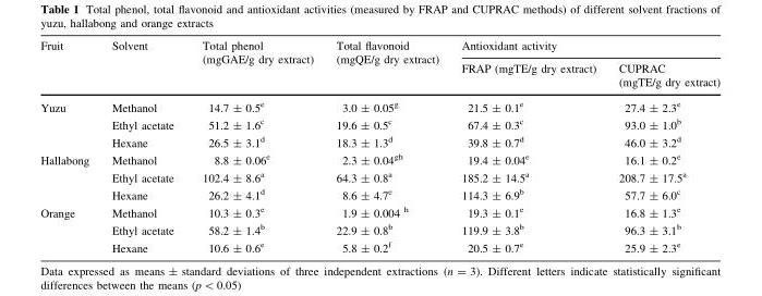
<table><thead><tr><td rowspan="2">Fruit</td><td rowspan="2">Solvent</td><td rowspan="2">Total phenol (mgGAE/g dry extract)</td><td rowspan="2">Total flavonoid (mgQE/g dry extract)</td><td colspan="2">Antioxidant activity</td></tr><tr><td>FRAP (mgTE/g dry extract)</td><td>CUPRAC (mgTE/g dry extract)</td></tr></thead><tbody><tr><td rowspan="3">Yuzu</td><td>Methanol</td><td>14.7 ± 0.5<sup>e</sup></td><td>3.0 ± 0.05<sup>g</sup></td><td>21.5 ± 0.1<sup>e</sup></td><td>27.4 ± 2.3<sup>e</sup></td></tr><tr><td>Ethyl acetate</td><td>51.2 ± 1.6<sup>c</sup></td><td>19.6 ± 0.5<sup>c</sup></td><td>67.4 ± 0.3<sup>c</sup></td><td>93.0 ± 1.0<sup>b</sup></td></tr><tr><td>Hexane</td><td>26.5 ± 3.1<sup>d</sup></td><td>18.3 ± 1.3<sup>d</sup></td><td>39.8 ± 0.7<sup>d</sup></td><td>46.0 ± 3.2<sup>d</sup></td></tr><tr><td rowspan="3">Hallabong</td><td>Methanol</td><td>8.8 ± 0.06<sup>e</sup></td><td>2.3 ± 0.04<sup>gh</sup></td><td>19.4 ± 0.04<sup>e</sup></td><td>16.1 ± 0.2<sup>e</sup></td></tr><tr><td>Ethyl acetate</td><td>102.4 ± 8.6<sup>a</sup></td><td>64.3 ± 0.8<sup>a</sup></td><td>185.2 ± 14.5<sup>a</sup></td><td>208.7 ± 17.5<sup>a</sup></td></tr><tr><td>Hexane</td><td>26.2 ± 4.1<sup>d</sup></td><td>8.6 ± 4.7<sup>e</sup></td><td>114.3 ± 6.9<sup>b</sup></td><td>57.7 ± 6.0<sup>c</sup></td></tr><tr><td rowspan="3">Orange</td><td>Methanol</td><td>10.3 ± 0.3<sup>e</sup></td><td>1.9 ± 0.004 <sup>h</sup></td><td>19.3 ± 0.1<sup>e</sup></td><td>16.8 ± 1.3<sup>e</sup></td></tr><tr><td>Ethyl acetate</td><td>58.2 ± 1.4<sup>b</sup></td><td>22.9 ± 0.8<sup>b</sup></td><td>119.9 ± 3.8<sup>b</sup></td><td>96.3 ± 3.1<sup>b</sup></td></tr><tr><td>Hexane</td><td>10.6 ± 0.6<sup>e</sup></td><td>5.8 ± 0.2<sup>f</sup></td><td>20.5 ± 0.7<sup>e</sup></td><td>25.9 ± 2.3<sup>e</sup></td></tr></tbody></table>